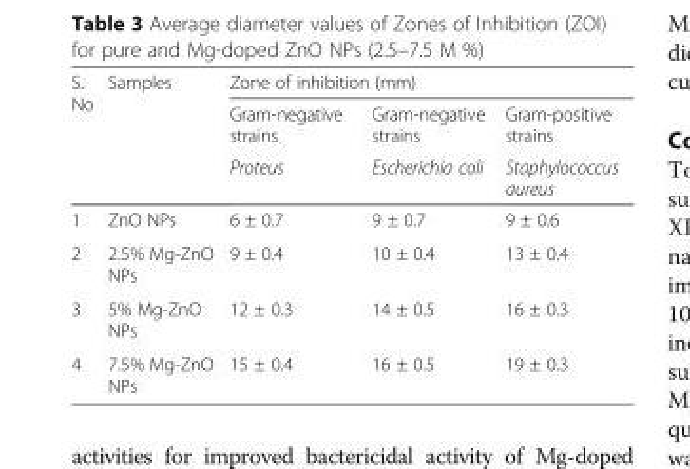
<table><thead><tr><td rowspan="3">S. No</td><td rowspan="3">Samples</td><td colspan="3">Zone of inhibition (mm)</td></tr><tr><td rowspan="2">Gram-negative strains Proteus</td><td rowspan="2">Gram-negative strains Escherichia coli</td><td rowspan="2">Gram-positive strains Staphylococcus aureus</td></tr><tr></tr></thead><tbody><tr><td>1</td><td>ZnO NPs</td><td>6 ± 0.7</td><td>9 ± 0.7</td><td>9 ± 0.6</td></tr><tr><td>2</td><td>2.5% Mg-ZnO NPs</td><td>9 ± 0.4</td><td>10 ± 0.4</td><td>13 ± 0.4</td></tr><tr><td>3</td><td>5% Mg-ZnO NPs</td><td>12 ± 0.3</td><td>14 ± 0.5</td><td>16 ± 0.3</td></tr><tr><td>4</td><td>7.5% Mg-ZnO NPs</td><td>15 ± 0.4</td><td>16 ± 0.5</td><td>19 ± 0.3</td></tr></tbody></table>